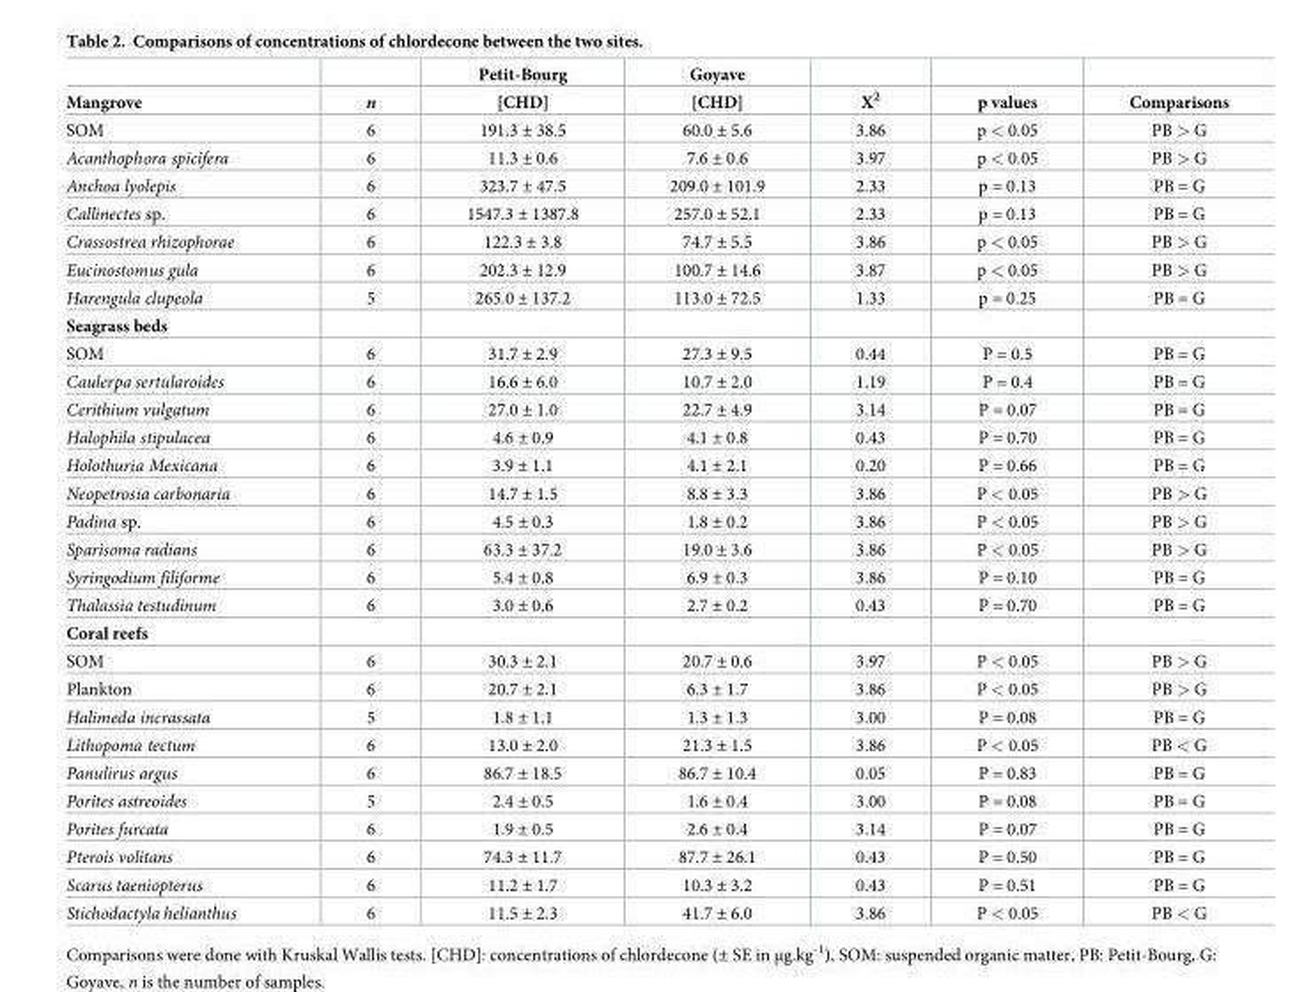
<table><thead><tr><td rowspan="2">Mangrove</td><td rowspan="2">n</td><td rowspan="2">Petit-Bourg [CHD]</td><td rowspan="2">Goyave [CHD]</td><td rowspan="2">X<sup>2</sup></td><td rowspan="2">p values</td><td rowspan="2">Comparisons</td></tr><tr></tr></thead><tbody><tr><td>SOM</td><td>6</td><td>191.3 ± 38.5</td><td>60.0 ± 5.6</td><td>3.86</td><td>p &lt; 0.05</td><td>PB &gt; G</td></tr><tr><td>Acanthophora spicifera</td><td>6</td><td>11.3 ± 0.6</td><td>7.6 ± 0.6</td><td>3.97</td><td>p &lt; 0.05</td><td>PB &gt; G</td></tr><tr><td>Anchoa lyolepis</td><td>6</td><td>323.7 ± 47.5</td><td>209.0 ± 101.9</td><td>2.33</td><td>p = 0.13</td><td>PB = G</td></tr><tr><td>Callinectes sp.</td><td>6</td><td>1547.3 ± 1387.8</td><td>257.0 ± 52.1</td><td>2.33</td><td>p = 0.13</td><td>PB = G</td></tr><tr><td>Crassostrea rhizophorae</td><td>6</td><td>122.3 ± 3.8</td><td>74.7 ± 5.5</td><td>3.86</td><td>p &lt; 0.05</td><td>PB &gt; G</td></tr><tr><td>Eucinostomus gula</td><td>6</td><td>202.3 ± 12.9</td><td>100.7 ± 14.6</td><td>3.87</td><td>p &lt; 0.05</td><td>PB &gt; G</td></tr><tr><td>Harengula clupeola</td><td>5</td><td>265.0 ± 137.2</td><td>113.0 ± 72.5</td><td>1.33</td><td>p = 0.25</td><td>PB = G</td></tr><tr><td colspan="7">Seagrass beds</td></tr><tr><td>SOM</td><td>6</td><td>31.7 ± 2.9</td><td>27.3 ± 9.5</td><td>0.44</td><td>P = 0.5</td><td>PB = G</td></tr><tr><td>Caulerpa sertularoides</td><td>6</td><td>16.6 ± 6.0</td><td>10.7 ± 2.0</td><td>1.19</td><td>P = 0.4</td><td>PB = G</td></tr><tr><td>Cerithium vulgatum</td><td>6</td><td>27.0 ± 1.0</td><td>22.7 ± 4.9</td><td>3.14</td><td>P = 0.07</td><td>PB = G</td></tr><tr><td>Halophila stipulacea</td><td>6</td><td>4.6 ± 0.9</td><td>4.1 ± 0.8</td><td>0.43</td><td>P = 0.70</td><td>PB = G</td></tr><tr><td>Holothuria Mexicana</td><td>6</td><td>3.9 ± 1.1</td><td>4.1 ± 2.1</td><td>0.20</td><td>P = 0.66</td><td>PB = G</td></tr><tr><td>Neopetrosia carbonaria</td><td>6</td><td>14.7 ± 1.5</td><td>8.8 ± 3.3</td><td>3.86</td><td>P &lt; 0.05</td><td>PB &gt; G</td></tr><tr><td>Padina sp.</td><td>6</td><td>4.5 ± 0.3</td><td>1.8 ± 0.2</td><td>3.86</td><td>P &lt; 0.05</td><td>PB &gt; G</td></tr><tr><td>Sparisoma radians</td><td>6</td><td>63.3 ± 37.2</td><td>19.0 ± 3.6</td><td>3.86</td><td>P &lt; 0.05</td><td>PB &gt; G</td></tr><tr><td>Syringodium filiforme</td><td>6</td><td>5.4 ± 0.8</td><td>6.9 ± 0.3</td><td>3.86</td><td>P = 0.10</td><td>PB = G</td></tr><tr><td>Thalassia testudinum</td><td>6</td><td>3.0 ± 0.6</td><td>2.7 ± 0.2</td><td>0.43</td><td>P = 0.70</td><td>PB = G</td></tr><tr><td colspan="7">Coral reefs</td></tr><tr><td>SOM</td><td>6</td><td>30.3 ± 2.1</td><td>20.7 ± 0.6</td><td>3.97</td><td>P &lt; 0.05</td><td>PB &gt; G</td></tr><tr><td>Plankton</td><td>6</td><td>20.7 ± 2.1</td><td>6.3 ± 1.7</td><td>3.86</td><td>P &lt; 0.05</td><td>PB &gt; G</td></tr><tr><td>Halimeda incrassata</td><td>5</td><td>1.8 ± 1.1</td><td>1.3 ± 1.3</td><td>3.00</td><td>P = 0.08</td><td>PB = G</td></tr><tr><td>Lithopoma tectum</td><td>6</td><td>13.0 ± 2.0</td><td>21.3 ± 1.5</td><td>3.86</td><td>P &lt; 0.05</td><td>PB &lt; G</td></tr><tr><td>Panulirus argus</td><td>6</td><td>86.7 ± 18.5</td><td>86.7 ± 10.4</td><td>0.05</td><td>P = 0.83</td><td>PB = G</td></tr><tr><td>Porites astreoides</td><td>5</td><td>2.4 ± 0.5</td><td>1.6 ± 0.4</td><td>3.00</td><td>P = 0.08</td><td>PB = G</td></tr><tr><td>Porites furcata</td><td>6</td><td>1.9 ± 0.5</td><td>2.6 ± 0.4</td><td>3.14</td><td>P = 0.07</td><td>PB = G</td></tr><tr><td>Pterois volitans</td><td>6</td><td>74.3 ± 11.7</td><td>87.7 ± 26.1</td><td>0.43</td><td>P = 0.50</td><td>PB = G</td></tr><tr><td>Scarus taeniopterus</td><td>6</td><td>11.2 ± 1.7</td><td>10.3 ± 3.2</td><td>0.43</td><td>P = 0.51</td><td>PB = G</td></tr><tr><td>Stichodactyla helianthus</td><td>6</td><td>11.5 ± 2.3</td><td>41.7 ± 6.0</td><td>3.86</td><td>P &lt; 0.05</td><td>PB &lt; G</td></tr></tbody></table>